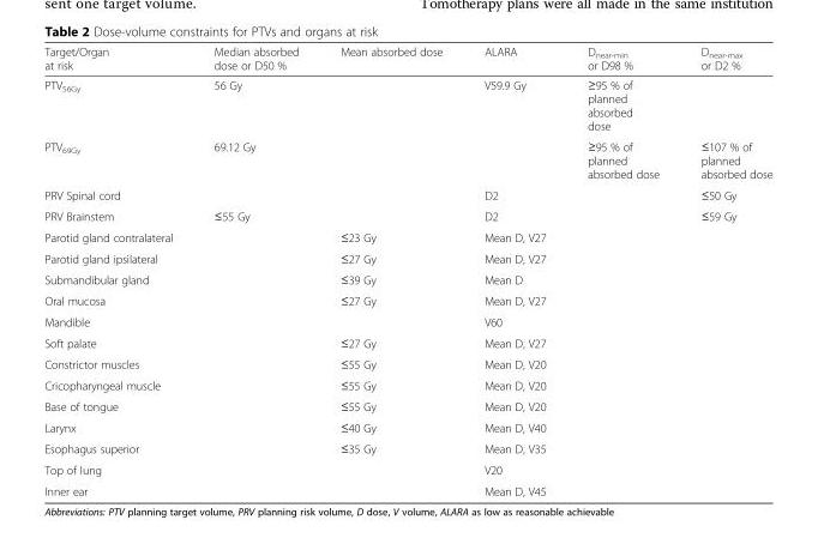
<table><thead><tr><td>Target/Organ at risk</td><td>Median absorbed dose or D50 %</td><td>Mean absorbed dose</td><td>ALARA</td><td>D<sub>near-min</sub> or D98 %</td><td>D<sub>near-max</sub> or D2 %</td></tr></thead><tbody><tr><td>PTV<sub>56Gy</sub></td><td>56 Gy</td><td></td><td>V59.9 Gy</td><td>≥95 % of planned absorbed dose</td><td></td></tr><tr><td>PTV<sub>69Gy</sub></td><td>69.12 Gy</td><td></td><td></td><td>≥95 % of planned absorbed dose</td><td>≤107 % of planned absorbed dose</td></tr><tr><td>PRV Spinal cord</td><td></td><td></td><td>D2</td><td></td><td>≤50 Gy</td></tr><tr><td>PRV Brainstem</td><td>≤55 Gy</td><td></td><td>D2</td><td></td><td>≤59 Gy</td></tr><tr><td>Parotid gland contralateral</td><td></td><td>≤23 Gy</td><td>Mean D, V27</td><td></td><td></td></tr><tr><td>Parotid gland ipsilateral</td><td></td><td>≤27 Gy</td><td>Mean D, V27</td><td></td><td></td></tr><tr><td>Submandibular gland</td><td></td><td>≤39 Gy</td><td>Mean D</td><td></td><td></td></tr><tr><td>Oral mucosa</td><td></td><td>≤27 Gy</td><td>Mean D, V27</td><td></td><td></td></tr><tr><td>Mandible</td><td></td><td></td><td>V60</td><td></td><td></td></tr><tr><td>Soft palate</td><td></td><td>≤27 Gy</td><td>Mean D, V27</td><td></td><td></td></tr><tr><td>Constrictor muscles</td><td></td><td>≤55 Gy</td><td>Mean D, V20</td><td></td><td></td></tr><tr><td>Cricopharyngeal muscle</td><td></td><td>≤55 Gy</td><td>Mean D, V20</td><td></td><td></td></tr><tr><td>Base of tongue</td><td></td><td>≤55 Gy</td><td>Mean D, V20</td><td></td><td></td></tr><tr><td>Larynx</td><td></td><td>≤40 Gy</td><td>Mean D, V40</td><td></td><td></td></tr><tr><td>Esophagus superior</td><td></td><td>≤35 Gy</td><td>Mean D, V35</td><td></td><td></td></tr><tr><td>Top of lung</td><td></td><td></td><td>V20</td><td></td><td></td></tr><tr><td>Inner ear</td><td></td><td></td><td>Mean D, V45</td><td></td><td></td></tr></tbody></table>